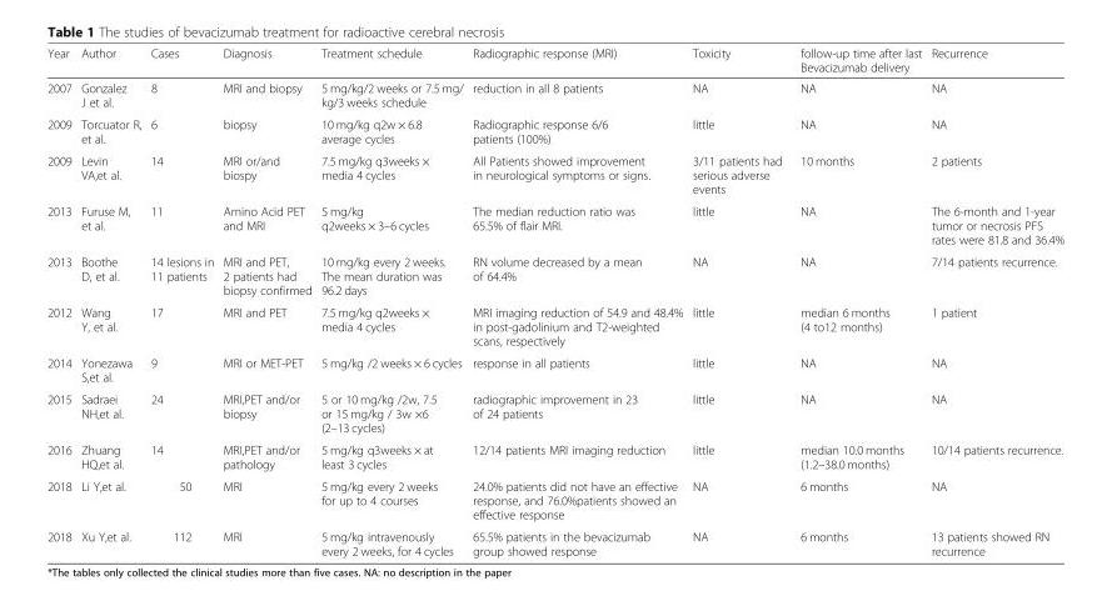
<table><thead><tr><td>Year</td><td>Author</td><td>Cases</td><td>Diagnosis</td><td>Treatment schedule</td><td>Radiographic response (MRI)</td><td>Toxicity</td><td>follow-up time after last Bevacizumab delivery</td><td>Recurrence</td></tr></thead><tbody><tr><td>2007</td><td>Gonzalez J et al.</td><td>8</td><td>MRI and biopsy</td><td>5 mg/kg/2 weeks or 7.5 mg/ kg/3 weeks schedule</td><td>reduction in all 8 patients</td><td>NA</td><td>NA</td><td>NA</td></tr><tr><td>2009</td><td>Torcuator R, et al.</td><td>6</td><td>biopsy</td><td>10 mg/kg q2w × 6.8 average cycles</td><td>Radiographic response 6/6 patients (100%)</td><td>little</td><td>NA</td><td>NA</td></tr><tr><td>2009</td><td>Levin VA,et al.</td><td>14</td><td>MRI or/and biospy</td><td>7.5 mg/kg q3weeks × media 4 cycles</td><td>All Patients showed improvement in neurological symptoms or signs.</td><td>3/11 patients had serious adverse events</td><td>10 months</td><td>2 patients</td></tr><tr><td>2013</td><td>Furuse M, et al.</td><td>11</td><td>Amino Acid PET and MRI</td><td>5 mg/kg q2weeks × 3–6 cycles</td><td>The median reduction ratio was 65.5% of flair MRI.</td><td>little</td><td>NA</td><td>The 6-month and 1-year tumor or necrosis PFS rates were 81.8 and 36.4%</td></tr><tr><td>2013</td><td>Boothe D, et al.</td><td>14 lesions in 11 patients</td><td>MRI and PET, 2 patients had biopsy confirmed</td><td>10 mg/kg every 2 weeks. The mean duration was 96.2 days</td><td>RN volume decreased by a mean of 64.4%</td><td>NA</td><td>NA</td><td>7/14 patients recurrence.</td></tr><tr><td>2012</td><td>Wang Y, et al.</td><td>17</td><td>MRI and PET</td><td>7.5 mg/kg q2weeks × media 4 cycles</td><td>MRI imaging reduction of 54.9 and 48.4% in post-gadolinium and T2-weighted scans, respectively</td><td>little</td><td>median 6 months (4 to12 months)</td><td>1 patient</td></tr><tr><td>2014</td><td>Yonezawa S,et al.</td><td>9</td><td>MRI or MET-PET</td><td>5 mg/kg /2 weeks × 6 cycles</td><td>response in all patients</td><td>little</td><td>NA</td><td>NA</td></tr><tr><td>2015</td><td>Sadraei NH,et al.</td><td>24</td><td>MRI,PET and/or biopsy</td><td>5 or 10 mg/kg /2w, 7.5 or 15 mg/kg / 3w ×6 (2–13 cycles)</td><td>radiographic improvement in 23 of 24 patients</td><td>little</td><td>NA</td><td>NA</td></tr><tr><td>2016</td><td>Zhuang HQ,et al.</td><td>14</td><td>MRI,PET and/or pathology</td><td>5 mg/kg q3weeks × at least 3 cycles</td><td>12/14 patients MRI imaging reduction</td><td>little</td><td>median 10.0 months (1.2–38.0 months)</td><td>10/14 patients recurrence.</td></tr><tr><td>2018</td><td>Li Y,et al.</td><td>50</td><td>MRI</td><td>5 mg/kg every 2 weeks for up to 4 courses</td><td>24.0% patients did not have an effective response, and 76.0%patients showed an effective response</td><td>NA</td><td>6 months</td><td>NA</td></tr><tr><td>2018</td><td>Xu Y,et al.</td><td>112</td><td>MRI</td><td>5 mg/kg intravenously every 2 weeks, for 4 cycles</td><td>65.5% patients in the bevacizumab group showed response</td><td>NA</td><td>6 months</td><td>13 patients showed RN recurrence</td></tr></tbody></table>